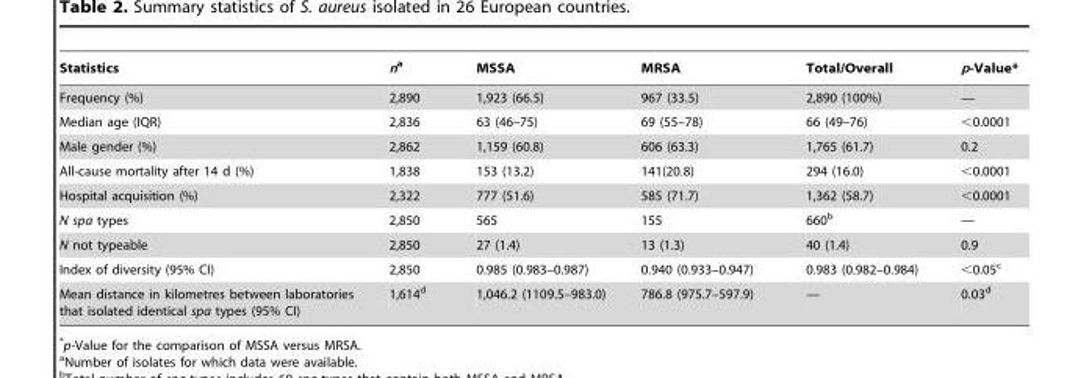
<table><thead><tr><td>Statistics</td><td>na</td><td>MSSA</td><td>MRSA</td><td>Total/Overall</td><td>p-Value*</td></tr></thead><tbody><tr><td>Frequency (%)</td><td>2,890</td><td>1,923 (66.5)</td><td>967 (33.5)</td><td>2,890 (100%)</td><td>—</td></tr><tr><td>Median age (IQR)</td><td>2,836</td><td>63 (46–75)</td><td>69 (55–78)</td><td>66 (49–76)</td><td>&lt;0.0001</td></tr><tr><td>Male gender (%)</td><td>2,862</td><td>1,159 (60.8)</td><td>606 (63.3)</td><td>1,765 (61.7)</td><td>0.2</td></tr><tr><td>All-cause mortality after 14 d (%)</td><td>1,838</td><td>153 (13.2)</td><td>141(20.8)</td><td>294 (16.0)</td><td>&lt;0.0001</td></tr><tr><td>Hospital acquisition (%)</td><td>2,322</td><td>777 (51.6)</td><td>585 (71.7)</td><td>1,362 (58.7)</td><td>&lt;0.0001</td></tr><tr><td>N spa types</td><td>2,850</td><td>565</td><td>155</td><td>660<sup>b</sup></td><td>—</td></tr><tr><td>N not typeable</td><td>2,850</td><td>27 (1.4)</td><td>13 (1.3)</td><td>40 (1.4)</td><td>0.9</td></tr><tr><td>Index of diversity (95% CI)</td><td>2,850</td><td>0.985 (0.983–0.987)</td><td>0.940 (0.933–0.947)</td><td>0.983 (0.982–0.984)</td><td>&lt;0.05<sup>c</sup></td></tr><tr><td>Mean distance in kilometres between laboratories that isolated identical spa types (95% CI)</td><td>1,614<sup>d</sup></td><td>1,046.2 (1109.5–983.0)</td><td>786.8 (975.7–597.9)</td><td>—</td><td>0.03<sup>d</sup></td></tr></tbody></table>